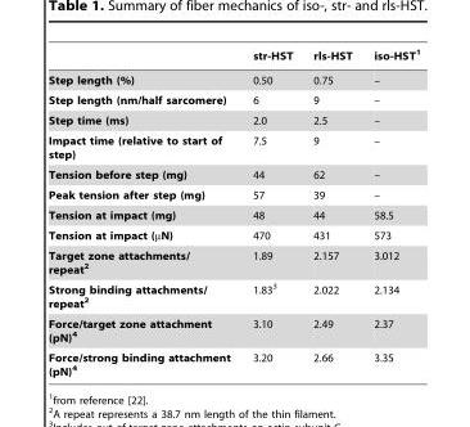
<table><thead><tr><td></td><td>str-HST</td><td>rls-HST</td><td>iso-HST<sup>1</sup></td></tr></thead><tbody><tr><td>Step length (%)</td><td>0.50</td><td>0.75</td><td>–</td></tr><tr><td>Step length (nm/half sarcomere)</td><td>6</td><td>9</td><td>–</td></tr><tr><td>Step time (ms)</td><td>2.0</td><td>2.5</td><td>–</td></tr><tr><td>Impact time (relative to start of step)</td><td>7.5</td><td>9</td><td>–</td></tr><tr><td>Tension before step (mg)</td><td>44</td><td>62</td><td>–</td></tr><tr><td>Peak tension after step (mg)</td><td>57</td><td>39</td><td>–</td></tr><tr><td>Tension at impact (mg)</td><td>48</td><td>44</td><td>58.5</td></tr><tr><td>Tension at impact (µN)</td><td>470</td><td>431</td><td>573</td></tr><tr><td>Target zone attachments/ repeat2</td><td>1.89</td><td>2.157</td><td>3.012</td></tr><tr><td>Strong binding attachments/ repeat2</td><td>1.83<sup>3</sup></td><td>2.022</td><td>2.134</td></tr><tr><td>Force/target zone attachment (pN)4</td><td>3.10</td><td>2.49</td><td>2.37</td></tr><tr><td>Force/strong binding attachment (pN)4</td><td>3.20</td><td>2.66</td><td>3.35</td></tr></tbody></table>